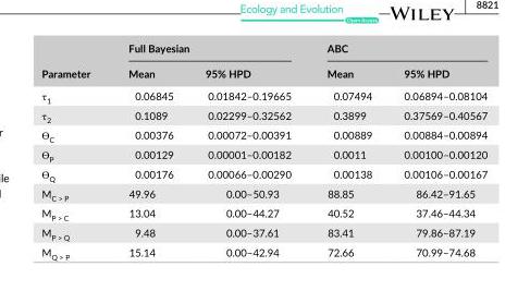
<table><thead><tr><td rowspan="2">Parameter</td><td colspan="2">Full Bayesian</td><td colspan="2">ABC</td></tr><tr><td>Mean</td><td>95% HPD</td><td>Mean</td><td>95% HPD</td></tr></thead><tbody><tr><td>τ<sub>1</sub></td><td>0.06845</td><td>0.01842–0.19665</td><td>0.07494</td><td>0.06894–0.08104</td></tr><tr><td>τ<sub>2</sub></td><td>0.1089</td><td>0.02299–0.32562</td><td>0.3899</td><td>0.37569–0.40567</td></tr><tr><td>ϴ<sub>C</sub></td><td>0.00376</td><td>0.00072–0.00391</td><td>0.00889</td><td>0.00884–0.00894</td></tr><tr><td>ϴ<sub>P</sub></td><td>0.00129</td><td>0.00001–0.00182</td><td>0.0011</td><td>0.00100–0.00120</td></tr><tr><td>ϴ<sub>Q</sub></td><td>0.00176</td><td>0.00066–0.00290</td><td>0.00138</td><td>0.00106–0.00167</td></tr><tr><td>M<sub>C &gt; P</sub></td><td>49.96</td><td>0.00–50.93</td><td>88.85</td><td>86.42–91.65</td></tr><tr><td>M<sub>P &gt; C</sub></td><td>13.04</td><td>0.00–44.27</td><td>40.52</td><td>37.46–44.34</td></tr><tr><td>M<sub>P &gt; Q</sub></td><td>9.48</td><td>0.00–37.61</td><td>83.41</td><td>79.86–87.19</td></tr><tr><td>M<sub>Q &gt; P</sub></td><td>15.14</td><td>0.00–42.94</td><td>72.66</td><td>70.99–74.68</td></tr></tbody></table>